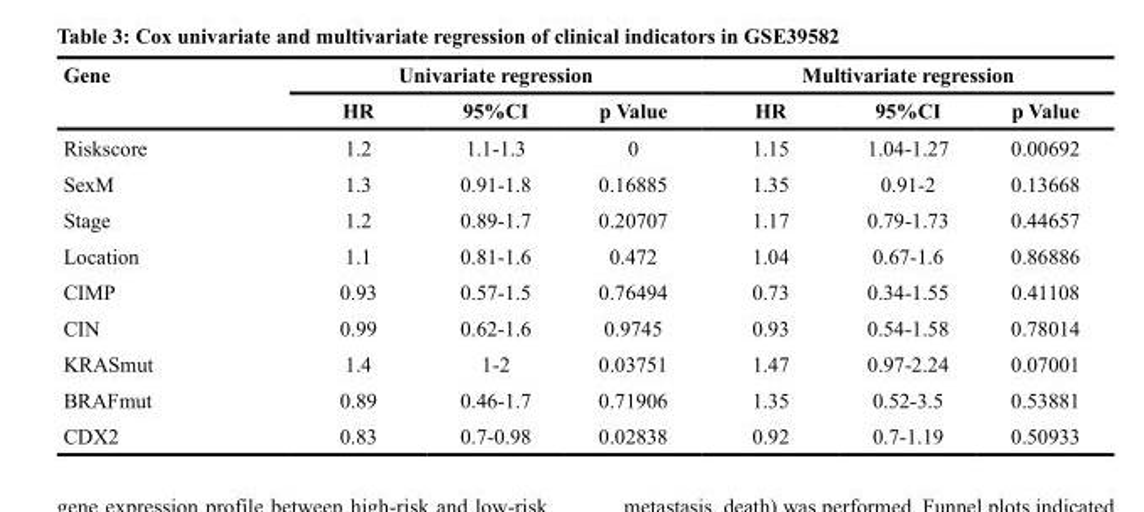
<table><thead><tr><td rowspan="2">Gene</td><td colspan="3">Univariate regression</td><td colspan="3">Multivariate regression</td></tr><tr><td>HR</td><td>95%CI</td><td>p Value</td><td>HR</td><td>95%CI</td><td>p Value</td></tr></thead><tbody><tr><td>Riskscore</td><td>1.2</td><td>1.1-1.3</td><td>0</td><td>1.15</td><td>1.04-1.27</td><td>0.00692</td></tr><tr><td>SexM</td><td>1.3</td><td>0.91-1.8</td><td>0.16885</td><td>1.35</td><td>0.91-2</td><td>0.13668</td></tr><tr><td>Stage</td><td>1.2</td><td>0.89-1.7</td><td>0.20707</td><td>1.17</td><td>0.79-1.73</td><td>0.44657</td></tr><tr><td>Location</td><td>1.1</td><td>0.81-1.6</td><td>0.472</td><td>1.04</td><td>0.67-1.6</td><td>0.86886</td></tr><tr><td>CIMP</td><td>0.93</td><td>0.57-1.5</td><td>0.76494</td><td>0.73</td><td>0.34-1.55</td><td>0.41108</td></tr><tr><td>CIN</td><td>0.99</td><td>0.62-1.6</td><td>0.9745</td><td>0.93</td><td>0.54-1.58</td><td>0.78014</td></tr><tr><td>KRASmut</td><td>1.4</td><td>1-2</td><td>0.03751</td><td>1.47</td><td>0.97-2.24</td><td>0.07001</td></tr><tr><td>BRAFmut</td><td>0.89</td><td>0.46-1.7</td><td>0.71906</td><td>1.35</td><td>0.52-3.5</td><td>0.53881</td></tr><tr><td>CDX2</td><td>0.83</td><td>0.7-0.98</td><td>0.02838</td><td>0.92</td><td>0.7-1.19</td><td>0.50933</td></tr></tbody></table>